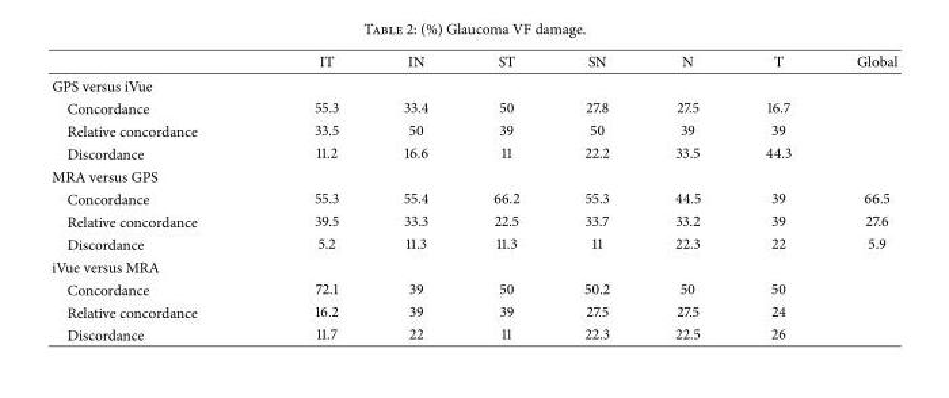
<table><thead><tr><td></td><td>IT</td><td>IN</td><td>ST</td><td>SN</td><td>N</td><td>T</td><td>Global</td></tr></thead><tbody><tr><td colspan="8">GPS versus iVue</td></tr><tr><td>Concordance</td><td>55.3</td><td>33.4</td><td>50</td><td>27.8</td><td>27.5</td><td>16.7</td><td></td></tr><tr><td>Relative concordance</td><td>33.5</td><td>50</td><td>39</td><td>50</td><td>39</td><td>39</td><td></td></tr><tr><td>Discordance</td><td>11.2</td><td>16.6</td><td>11</td><td>22.2</td><td>33.5</td><td>44.3</td><td></td></tr><tr><td colspan="8">MRA versus GPS</td></tr><tr><td>Concordance</td><td>55.3</td><td>55.4</td><td>66.2</td><td>55.3</td><td>44.5</td><td>39</td><td>66.5</td></tr><tr><td>Relative concordance</td><td>39.5</td><td>33.3</td><td>22.5</td><td>33.7</td><td>33.2</td><td>39</td><td>27.6</td></tr><tr><td>Discordance</td><td>5.2</td><td>11.3</td><td>11.3</td><td>11</td><td>22.3</td><td>22</td><td>5.9</td></tr><tr><td colspan="8">iVue versus MRA</td></tr><tr><td>Concordance</td><td>72.1</td><td>39</td><td>50</td><td>50.2</td><td>50</td><td>50</td><td></td></tr><tr><td>Relative concordance</td><td>16.2</td><td>39</td><td>39</td><td>27.5</td><td>27.5</td><td>24</td><td></td></tr><tr><td>Discordance</td><td>11.7</td><td>22</td><td>11</td><td>22.3</td><td>22.5</td><td>26</td><td></td></tr></tbody></table>